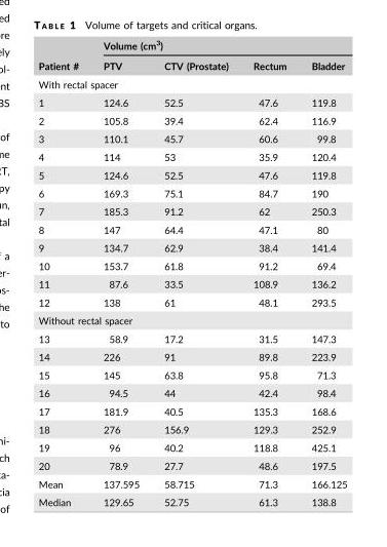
<table><thead><tr><td rowspan="2">Patient #</td><td colspan="4">Volume (cm<sup>3</sup>)</td></tr><tr><td>PTV</td><td>CTV (Prostate)</td><td>Rectum</td><td>Bladder</td></tr></thead><tbody><tr><td colspan="5">With rectal spacer</td></tr><tr><td>1</td><td>124.6</td><td>52.5</td><td>47.6</td><td>119.8</td></tr><tr><td>2</td><td>105.8</td><td>39.4</td><td>62.4</td><td>116.9</td></tr><tr><td>3</td><td>110.1</td><td>45.7</td><td>60.6</td><td>99.8</td></tr><tr><td>4</td><td>114</td><td>53</td><td>35.9</td><td>120.4</td></tr><tr><td>5</td><td>124.6</td><td>52.5</td><td>47.6</td><td>119.8</td></tr><tr><td>6</td><td>169.3</td><td>75.1</td><td>84.7</td><td>190</td></tr><tr><td>7</td><td>185.3</td><td>91.2</td><td>62</td><td>250.3</td></tr><tr><td>8</td><td>147</td><td>64.4</td><td>47.1</td><td>80</td></tr><tr><td>9</td><td>134.7</td><td>62.9</td><td>38.4</td><td>141.4</td></tr><tr><td>10</td><td>153.7</td><td>61.8</td><td>91.2</td><td>69.4</td></tr><tr><td>11</td><td>87.6</td><td>33.5</td><td>108.9</td><td>136.2</td></tr><tr><td>12</td><td>138</td><td>61</td><td>48.1</td><td>293.5</td></tr><tr><td colspan="5">Without rectal spacer</td></tr><tr><td>13</td><td>58.9</td><td>17.2</td><td>31.5</td><td>147.3</td></tr><tr><td>14</td><td>226</td><td>91</td><td>89.8</td><td>223.9</td></tr><tr><td>15</td><td>145</td><td>63.8</td><td>95.8</td><td>71.3</td></tr><tr><td>16</td><td>94.5</td><td>44</td><td>42.4</td><td>98.4</td></tr><tr><td>17</td><td>181.9</td><td>40.5</td><td>135.3</td><td>168.6</td></tr><tr><td>18</td><td>276</td><td>156.9</td><td>129.3</td><td>252.9</td></tr><tr><td>19</td><td>96</td><td>40.2</td><td>118.8</td><td>425.1</td></tr><tr><td>20</td><td>78.9</td><td>27.7</td><td>48.6</td><td>197.5</td></tr><tr><td>Mean</td><td>137.595</td><td>58.715</td><td>71.3</td><td>166.125</td></tr><tr><td>Median</td><td>129.65</td><td>52.75</td><td>61.3</td><td>138.8</td></tr></tbody></table>